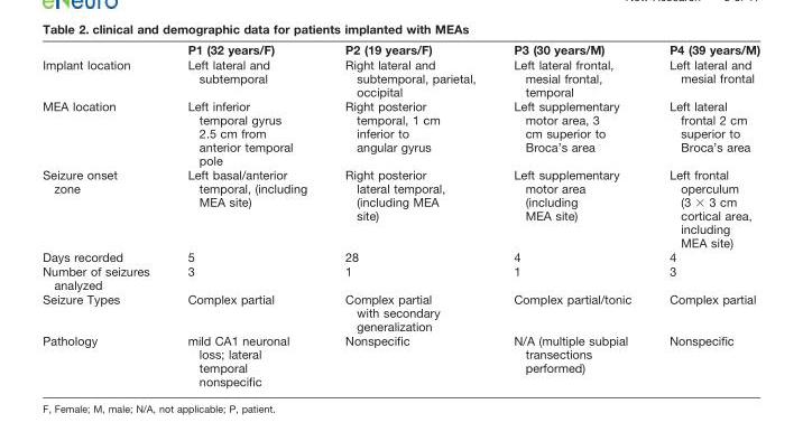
<table><thead><tr><td></td><td>P1 (32 years/F)</td><td>P2 (19 years/F)</td><td>P3 (30 years/M)</td><td>P4 (39 years/M)</td></tr></thead><tbody><tr><td>Implant location</td><td>Left lateral and subtemporal</td><td>Right lateral and subtemporal, parietal, occipital</td><td>Left lateral frontal, mesial frontal, temporal</td><td>Left lateral and mesial frontal</td></tr><tr><td>MEA location</td><td>Left inferior temporal gyrus 2.5 cm from anterior temporal pole</td><td>Right posterior temporal, 1 cm inferior to angular gyrus</td><td>Left supplementary motor area, 3 cm superior to Broca’s area</td><td>Left lateral frontal 2 cm superior to Broca’s area</td></tr><tr><td>Seizure onset zone</td><td>Left basal/anterior temporal, (including MEA site)</td><td>Right posterior lateral temporal, (including MEA site)</td><td>Left supplementary motor area (including MEA site)</td><td>Left frontal operculum (3 × 3 cm cortical area, including MEA site)</td></tr><tr><td>Days recorded</td><td>5</td><td>28</td><td>4</td><td>4</td></tr><tr><td>Number of seizures analyzed</td><td>3</td><td>1</td><td>1</td><td>3</td></tr><tr><td>Seizure Types</td><td>Complex partial</td><td>Complex partial with secondary generalization</td><td>Complex partial/tonic</td><td>Complex partial</td></tr><tr><td>Pathology</td><td>mild CA1 neuronal loss; lateral temporal nonspecific</td><td>Nonspecific</td><td>N/A (multiple subpial transections performed)</td><td>Nonspecific</td></tr></tbody></table>